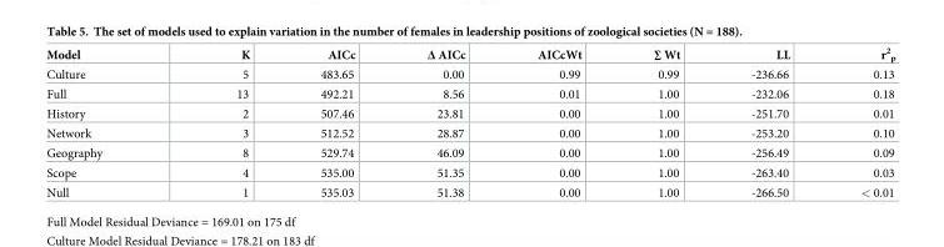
<table><thead><tr><td>Model</td><td>K</td><td>AICc</td><td>Δ AICc</td><td>AICcWt</td><td>∑ Wt</td><td>LL</td><td>r<sup>2</sup> <sub>p</sub></td></tr></thead><tbody><tr><td>Culture</td><td>5</td><td>483.65</td><td>0.00</td><td>0.99</td><td>0.99</td><td>-236.66</td><td>0.13</td></tr><tr><td>Full</td><td>13</td><td>492.21</td><td>8.56</td><td>0.01</td><td>1.00</td><td>-232.06</td><td>0.18</td></tr><tr><td>History</td><td>2</td><td>507.46</td><td>23.81</td><td>0.00</td><td>1.00</td><td>-251.70</td><td>0.01</td></tr><tr><td>Network</td><td>3</td><td>512.52</td><td>28.87</td><td>0.00</td><td>1.00</td><td>-253.20</td><td>0.10</td></tr><tr><td>Geography</td><td>8</td><td>529.74</td><td>46.09</td><td>0.00</td><td>1.00</td><td>-256.49</td><td>0.09</td></tr><tr><td>Scope</td><td>4</td><td>535.00</td><td>51.35</td><td>0.00</td><td>1.00</td><td>-263.40</td><td>0.03</td></tr><tr><td>Null</td><td>1</td><td>535.03</td><td>51.38</td><td>0.00</td><td>1.00</td><td>-266.50</td><td>&lt; 0.01</td></tr></tbody></table>